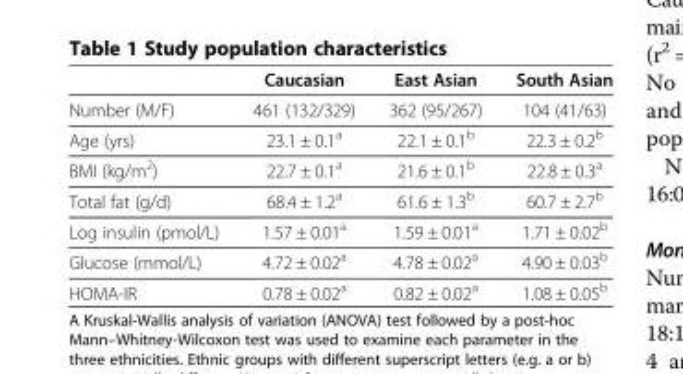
<table><thead><tr><td></td><td>Caucasian</td><td>East Asian</td><td>South Asian</td></tr></thead><tbody><tr><td>Number (M/F)</td><td>461 (132/329)</td><td>362 (95/267)</td><td>104 (41/63)</td></tr><tr><td>Age (yrs)</td><td>23.1 ± 0.1<sup>a</sup></td><td>22.1 ± 0.1<sup>b</sup></td><td>22.3 ± 0.2<sup>b</sup></td></tr><tr><td>BMI (kg/m<sup>2</sup>)</td><td>22.7 ± 0.1<sup>a</sup></td><td>21.6 ± 0.1<sup>b</sup></td><td>22.8 ± 0.3<sup>a</sup></td></tr><tr><td>Total fat (g/d)</td><td>68.4 ± 1.2<sup>a</sup></td><td>61.6 ± 1.3<sup>b</sup></td><td>60.7 ± 2.7<sup>b</sup></td></tr><tr><td>Log insulin (pmol/L)</td><td>1.57 ± 0.01<sup>a</sup></td><td>1.59 ± 0.01<sup>a</sup></td><td>1.71 ± 0.02<sup>b</sup></td></tr><tr><td>Glucose (mmol/L)</td><td>4.72 ± 0.02<sup>a</sup></td><td>4.78 ± 0.02<sup>a</sup></td><td>4.90 ± 0.03<sup>b</sup></td></tr><tr><td>HOMA-IR</td><td>0.78 ± 0.02<sup>a</sup></td><td>0.82 ± 0.02<sup>a</sup></td><td>1.08 ± 0.05<sup>b</sup></td></tr></tbody></table>